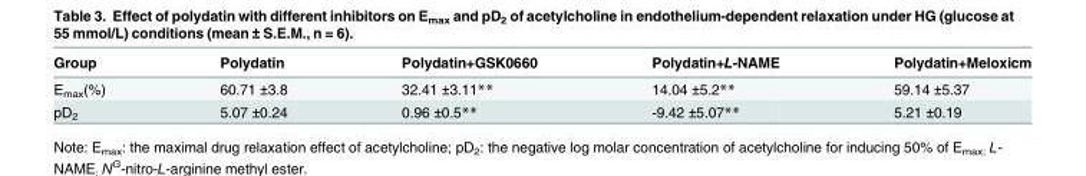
<table><thead><tr><td>Group</td><td>Polydatin</td><td>Polydatin+GSK0660</td><td>Polydatin+L-NAME</td><td>Polydatin+Meloxicm</td></tr></thead><tbody><tr><td>E<sub>max</sub>(%)</td><td>60.71 ±3.8</td><td>32.41 ±3.11**</td><td>14.04 ±5.2**</td><td>59.14 ±5.37</td></tr><tr><td>pD<sub>2</sub></td><td>5.07 ±0.24</td><td>0.96 ±0.5**</td><td>-9.42 ±5.07**</td><td>5.21 ±0.19</td></tr></tbody></table>